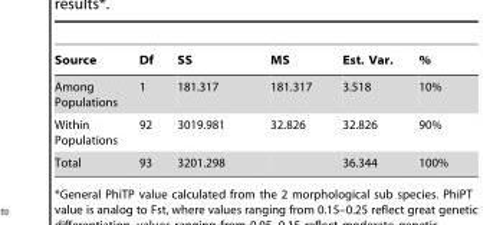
<table><thead><tr><td>Source</td><td>Df</td><td>SS</td><td>MS</td><td>Est. Var.</td><td>%</td></tr></thead><tbody><tr><td>Among Populations</td><td>1</td><td>181.317</td><td>181.317</td><td>3.518</td><td>10%</td></tr><tr><td>Within Populations</td><td>92</td><td>3019.981</td><td>32.826</td><td>32.826</td><td>90%</td></tr><tr><td>Total</td><td>93</td><td>3201.298</td><td></td><td>36.344</td><td>100%</td></tr></tbody></table>